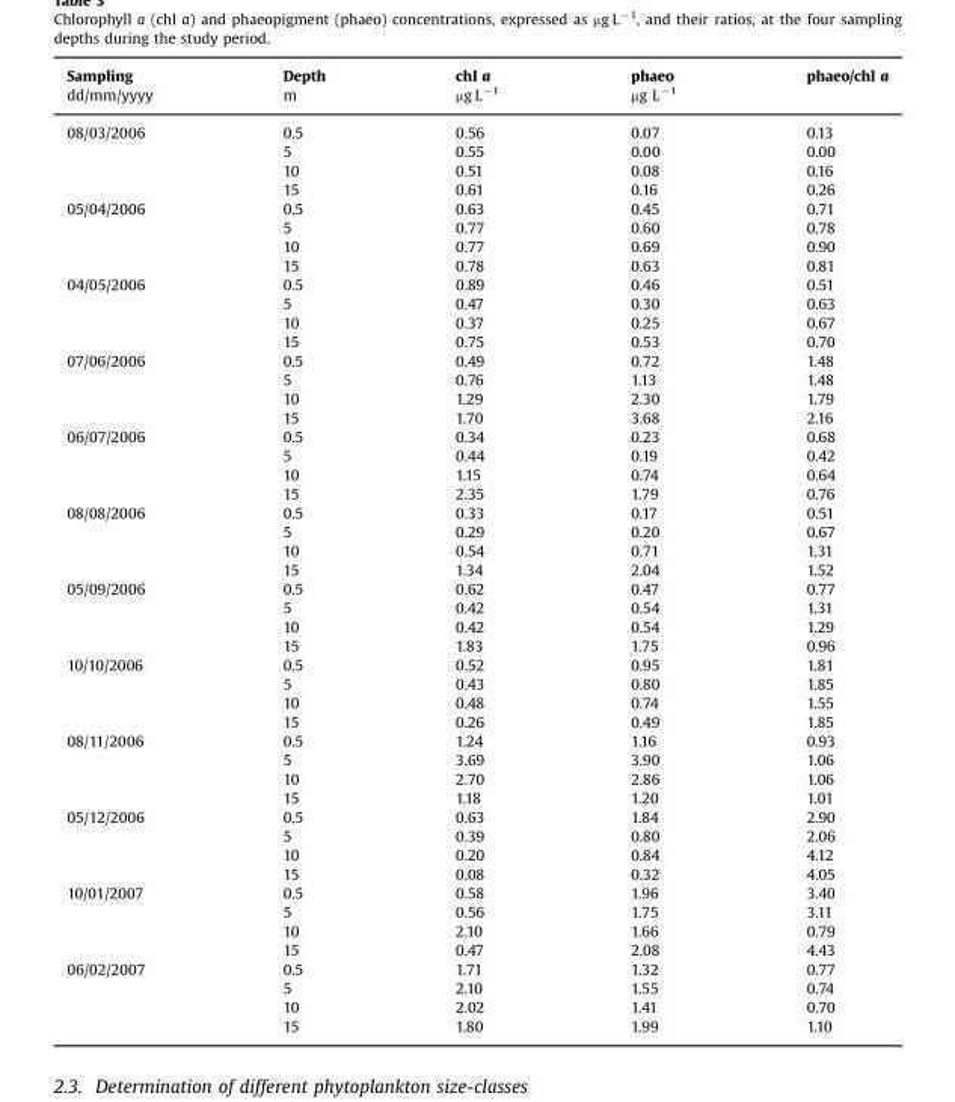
<table><thead><tr><td rowspan="2">Sampling dd/mm/yyyy</td><td rowspan="2">Depth m</td><td rowspan="2">chl a µg L<sup>−1</sup></td><td rowspan="2">phaeo µg L<sup>−1</sup></td><td rowspan="2">phaeo/chl a</td></tr><tr></tr></thead><tbody><tr><td rowspan="4">08/03/2006</td><td>0.5</td><td>0.56</td><td>0.07</td><td>0.13</td></tr><tr><td>5</td><td>0.55</td><td>0.00</td><td>0.00</td></tr><tr><td>10</td><td>0.51</td><td>0.08</td><td>0.16</td></tr><tr><td>15</td><td>0.61</td><td>0.16</td><td>0.26</td></tr><tr><td rowspan="4">05/04/2006</td><td>0.5</td><td>0.63</td><td>0.45</td><td>0.71</td></tr><tr><td>5</td><td>0.77</td><td>0.60</td><td>0.78</td></tr><tr><td>10</td><td>0.77</td><td>0.69</td><td>0.90</td></tr><tr><td>15</td><td>0.78</td><td>0.63</td><td>0.81</td></tr><tr><td rowspan="4">04/05/2006</td><td>0.5</td><td>0.89</td><td>0.46</td><td>0.51</td></tr><tr><td>5</td><td>0.47</td><td>0.30</td><td>0.63</td></tr><tr><td>10</td><td>0.37</td><td>0.25</td><td>0.67</td></tr><tr><td>15</td><td>0.75</td><td>0.53</td><td>0.70</td></tr><tr><td rowspan="4">07/06/2006</td><td>0.5</td><td>0.49</td><td>0.72</td><td>1.48</td></tr><tr><td>5</td><td>0.76</td><td>1.13</td><td>1.48</td></tr><tr><td>10</td><td>1.29</td><td>2.30</td><td>1.79</td></tr><tr><td>15</td><td>1.70</td><td>3.68</td><td>2.16</td></tr><tr><td rowspan="4">06/07/2006</td><td>0.5</td><td>0.34</td><td>0.23</td><td>0.68</td></tr><tr><td>5</td><td>0.44</td><td>0.19</td><td>0.42</td></tr><tr><td>10</td><td>1.15</td><td>0.74</td><td>0.64</td></tr><tr><td>15</td><td>2.35</td><td>1.79</td><td>0.76</td></tr><tr><td rowspan="4">08/08/2006</td><td>0.5</td><td>0.33</td><td>0.17</td><td>0.51</td></tr><tr><td>5</td><td>0.29</td><td>0.20</td><td>0.67</td></tr><tr><td>10</td><td>0.54</td><td>0.71</td><td>1.31</td></tr><tr><td>15</td><td>1.34</td><td>2.04</td><td>1.52</td></tr><tr><td rowspan="4">05/09/2006</td><td>0.5</td><td>0.62</td><td>0.47</td><td>0.77</td></tr><tr><td>5</td><td>0.42</td><td>0.54</td><td>1.31</td></tr><tr><td>10</td><td>0.42</td><td>0.54</td><td>1.29</td></tr><tr><td>15</td><td>1.83</td><td>1.75</td><td>0.96</td></tr><tr><td rowspan="4">10/10/2006</td><td>0.5</td><td>0.52</td><td>0.95</td><td>1.81</td></tr><tr><td>5</td><td>0.43</td><td>0.80</td><td>1.85</td></tr><tr><td>10</td><td>0.48</td><td>0.74</td><td>1.55</td></tr><tr><td>15</td><td>0.26</td><td>0.49</td><td>1.85</td></tr><tr><td rowspan="4">08/11/2006</td><td>0.5</td><td>1.24</td><td>1.16</td><td>0.93</td></tr><tr><td>5</td><td>3.69</td><td>3.90</td><td>1.06</td></tr><tr><td>10</td><td>2.70</td><td>2.86</td><td>1.06</td></tr><tr><td>15</td><td>1.18</td><td>1.20</td><td>1.01</td></tr><tr><td rowspan="4">05/12/2006</td><td>0.5</td><td>0.63</td><td>1.84</td><td>2.90</td></tr><tr><td>5</td><td>0.39</td><td>0.80</td><td>2.06</td></tr><tr><td>10</td><td>0.20</td><td>0.84</td><td>4.12</td></tr><tr><td>15</td><td>0.08</td><td>0.32</td><td>4.05</td></tr><tr><td rowspan="4">10/01/2007</td><td>0.5</td><td>0.58</td><td>1.96</td><td>3.40</td></tr><tr><td>5</td><td>0.56</td><td>1.75</td><td>3.11</td></tr><tr><td>10</td><td>2.10</td><td>1.66</td><td>0.79</td></tr><tr><td>15</td><td>0.47</td><td>2.08</td><td>4.43</td></tr><tr><td rowspan="4">06/02/2007</td><td>0.5</td><td>1.71</td><td>1.32</td><td>0.77</td></tr><tr><td>5</td><td>2.10</td><td>1.55</td><td>0.74</td></tr><tr><td>10</td><td>2.02</td><td>1.41</td><td>0.70</td></tr><tr><td>15</td><td>1.80</td><td>1.99</td><td>1.10</td></tr></tbody></table>